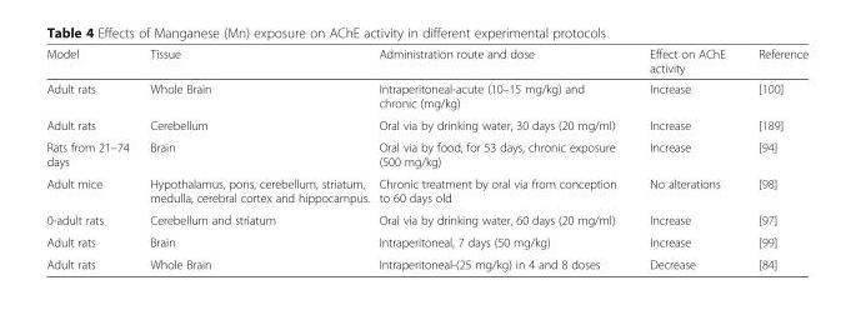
<table><thead><tr><td>Model</td><td>Tissue</td><td>Administration route and dose</td><td>Effect on AChE activity</td><td>Reference</td></tr></thead><tbody><tr><td>Adult rats</td><td>Whole Brain</td><td>Intraperitoneal-acute (10–15 mg/kg) and chronic (mg/kg)</td><td>Increase</td><td>[100]</td></tr><tr><td>Adult rats</td><td>Cerebellum</td><td>Oral via by drinking water, 30 days (20 mg/ml)</td><td>Increase</td><td>[189]</td></tr><tr><td>Rats from 21–74 days</td><td>Brain</td><td>Oral via by food, for 53 days, chronic exposure (500 mg/kg)</td><td>Increase</td><td>[94]</td></tr><tr><td>Adult mice</td><td>Hypothalamus, pons, cerebellum, striatum, medulla, cerebral cortex and hippocampus.</td><td>Chronic treatment by oral via from conception to 60 days old</td><td>No alterations</td><td>[98]</td></tr><tr><td>0-adult rats</td><td>Cerebellum and striatum</td><td>Oral via by drinking water, 60 days (20 mg/ml)</td><td>Increase</td><td>[97]</td></tr><tr><td>Adult rats</td><td>Brain</td><td>Intraperitoneal, 7 days (50 mg/kg)</td><td>Increase</td><td>[99]</td></tr><tr><td>Adult rats</td><td>Whole Brain</td><td>Intraperitoneal-(25 mg/kg) in 4 and 8 doses</td><td>Decrease</td><td>[84]</td></tr></tbody></table>